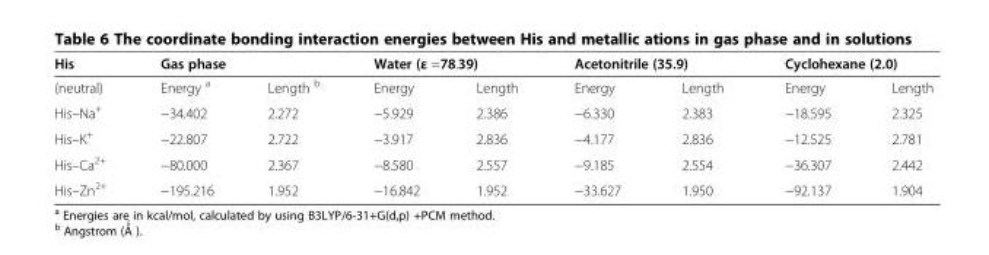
<table><thead><tr><td rowspan="2">His (neutral)</td><td colspan="2">Gas phase</td><td colspan="2">Water (ε =78.39)</td><td colspan="2">Acetonitrile (35.9)</td><td colspan="2">Cyclohexane (2.0)</td></tr><tr><td>Energy <sup>a</sup></td><td>Length <sup>b</sup></td><td>Energy</td><td>Length</td><td>Energy</td><td>Length</td><td>Energy</td><td>Length</td></tr></thead><tbody><tr><td>His–Na<sup>+</sup></td><td>−34.402</td><td>2.272</td><td>−5.929</td><td>2.386</td><td>−6.330</td><td>2.383</td><td>−18.595</td><td>2.325</td></tr><tr><td>His–K<sup>+</sup></td><td>−22.807</td><td>2.722</td><td>−3.917</td><td>2.836</td><td>−4.177</td><td>2.836</td><td>−12.525</td><td>2.781</td></tr><tr><td>His–Ca<sup>2+</sup></td><td>−80.000</td><td>2.367</td><td>−8.580</td><td>2.557</td><td>−9.185</td><td>2.554</td><td>−36.307</td><td>2.442</td></tr><tr><td>His–Zn<sup>2+</sup></td><td>−195.216</td><td>1.952</td><td>−16.842</td><td>1.952</td><td>−33.627</td><td>1.950</td><td>−92.137</td><td>1.904</td></tr></tbody></table>